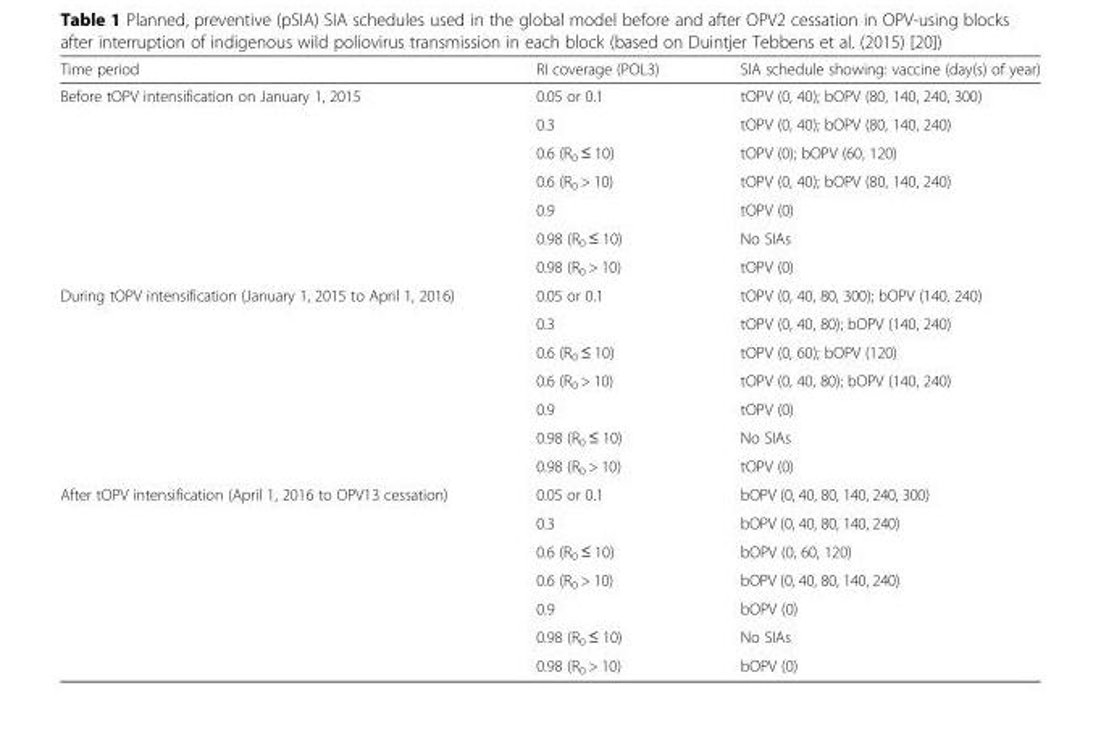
<table><thead><tr><td>Time period</td><td>RI coverage (POL3)</td><td>SIA schedule showing: vaccine (day(s) of year)</td></tr></thead><tbody><tr><td rowspan="7">Before tOPV intensification on January 1, 2015</td><td>0.05 or 0.1</td><td>tOPV (0, 40); bOPV (80, 140, 240, 300)</td></tr><tr><td>0.3</td><td>tOPV (0, 40); bOPV (80, 140, 240)</td></tr><tr><td>0.6 (R<sub>0</sub> ≤ 10)</td><td>tOPV (0); bOPV (60, 120)</td></tr><tr><td>0.6 (R<sub>0</sub> &gt; 10)</td><td>tOPV (0, 40); bOPV (80, 140, 240)</td></tr><tr><td>0.9</td><td>tOPV (0)</td></tr><tr><td>0.98 (R<sub>0</sub> ≤ 10)</td><td>No SIAs</td></tr><tr><td>0.98 (R<sub>0</sub> &gt; 10)</td><td>tOPV (0)</td></tr><tr><td rowspan="7">During tOPV intensification (January 1, 2015 to April 1, 2016)</td><td>0.05 or 0.1</td><td>tOPV (0, 40, 80, 300); bOPV (140, 240)</td></tr><tr><td>0.3</td><td>tOPV (0, 40, 80); bOPV (140, 240)</td></tr><tr><td>0.6 (R<sub>0</sub> ≤ 10)</td><td>tOPV (0, 60); bOPV (120)</td></tr><tr><td>0.6 (R<sub>0</sub> &gt; 10)</td><td>tOPV (0, 40, 80); bOPV (140, 240)</td></tr><tr><td>0.9</td><td>tOPV (0)</td></tr><tr><td>0.98 (R<sub>0</sub> ≤ 10)</td><td>No SIAs</td></tr><tr><td>0.98 (R<sub>0</sub> &gt; 10)</td><td>tOPV (0)</td></tr><tr><td rowspan="7">After tOPV intensification (April 1, 2016 to OPV13 cessation)</td><td>0.05 or 0.1</td><td>bOPV (0, 40, 80, 140, 240, 300)</td></tr><tr><td>0.3</td><td>bOPV (0, 40, 80, 140, 240)</td></tr><tr><td>0.6 (R<sub>0</sub> ≤ 10)</td><td>bOPV (0, 60, 120)</td></tr><tr><td>0.6 (R<sub>0</sub> &gt; 10)</td><td>bOPV (0, 40, 80, 140, 240)</td></tr><tr><td>0.9</td><td>bOPV (0)</td></tr><tr><td>0.98 (R<sub>0</sub> ≤ 10)</td><td>No SIAs</td></tr><tr><td>0.98 (R<sub>0</sub> &gt; 10)</td><td>bOPV (0)</td></tr></tbody></table>